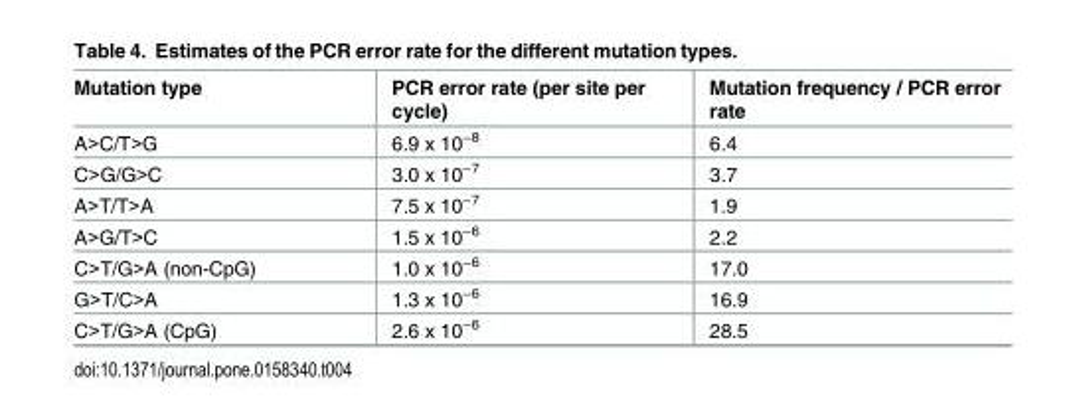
<table><thead><tr><td>Mutation type</td><td>PCR error rate (per site per cycle)</td><td>Mutation frequency / PCR error rate</td></tr></thead><tbody><tr><td>A&gt;C/T&gt;G</td><td>6.9 x 10<sup>−8</sup></td><td>6.4</td></tr><tr><td>C&gt;G/G&gt;C</td><td>3.0 x 10<sup>−7</sup></td><td>3.7</td></tr><tr><td>A&gt;T/T&gt;A</td><td>7.5 x 10<sup>−7</sup></td><td>1.9</td></tr><tr><td>A&gt;G/T&gt;C</td><td>1.5 x 10<sup>−6</sup></td><td>2.2</td></tr><tr><td>C&gt;T/G&gt;A (non-CpG)</td><td>1.0 x 10<sup>−6</sup></td><td>17.0</td></tr><tr><td>G&gt;T/C&gt;A</td><td>1.3 x 10<sup>−6</sup></td><td>16.9</td></tr><tr><td>C&gt;T/G&gt;A (CpG)</td><td>2.6 x 10<sup>−6</sup></td><td>28.5</td></tr></tbody></table>